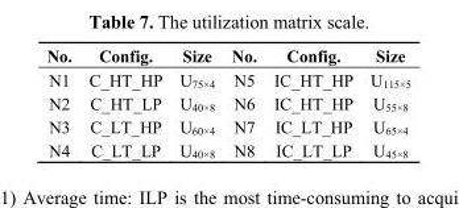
<table><thead><tr><td>No.</td><td>Config.</td><td>Size</td><td>No.</td><td>Config.</td><td>Size</td></tr></thead><tbody><tr><td>N1</td><td>C_HT_HP</td><td>U<sub>75×4</sub></td><td>N5</td><td>IC_HT_HP</td><td>U<sub>115×5</sub></td></tr><tr><td>N2</td><td>C_HT_LP</td><td>U<sub>40×8</sub></td><td>N6</td><td>IC_HT_HP</td><td>U<sub>55×8</sub></td></tr><tr><td>N3</td><td>C_LT_HP</td><td>U<sub>60×4</sub></td><td>N7</td><td>IC_LT_HP</td><td>U<sub>65×4</sub></td></tr><tr><td>N4</td><td>C_LT_LP</td><td>U<sub>40×8</sub></td><td>N8</td><td>IC_LT_LP</td><td>U<sub>45×8</sub></td></tr></tbody></table>